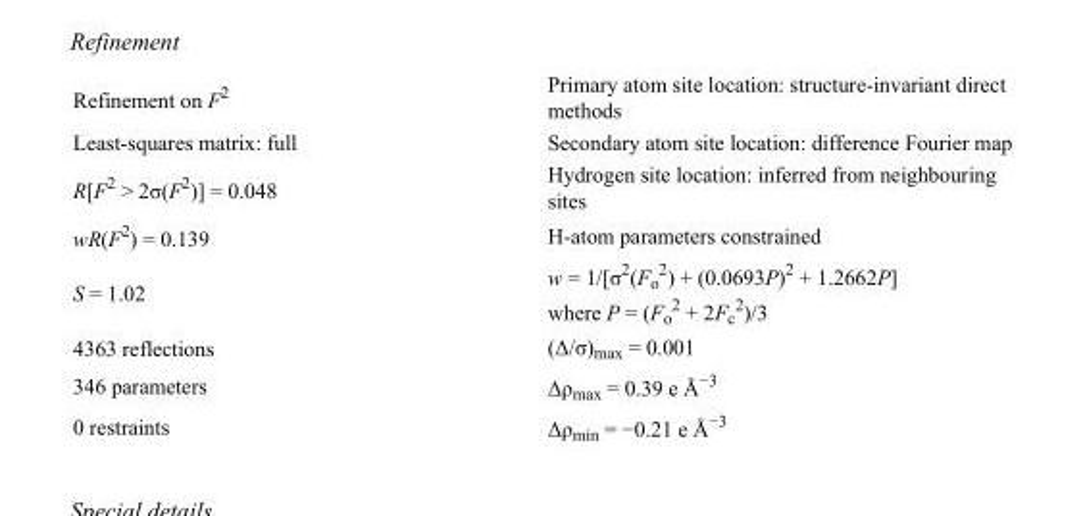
<table><tbody><tr><td>Refinement on F<sup>2</sup></td><td>Primary atom site location: structure-invariant direct methods</td></tr><tr><td>Least-squares matrix: full</td><td>Secondary atom site location: difference Fourier map</td></tr><tr><td>R[F<sup>2</sup> &gt; 2σ(F<sup>2</sup>)] = 0.048</td><td>Hydrogen site location: inferred from neighbouring sites</td></tr><tr><td>wR(F<sup>2</sup>) = 0.139</td><td>H-atom parameters constrained</td></tr><tr><td>S = 1.02</td><td>w = 1/[σ<sup>2</sup>(F<sub>o</sub> <sup>2</sup>) + (0.0693P)<sup>2</sup> + 1.2662P] where P = (F<sub>o</sub> <sup>2</sup> + 2F<sub>c</sub> <sup>2</sup>)/3</td></tr><tr><td>4363 reflections</td><td>(Δ/σ)<sub>max</sub> = 0.001</td></tr><tr><td>346 parameters</td><td>Δρ<sub>max</sub> = 0.39 e Å<sup>−3</sup></td></tr><tr><td>0 restraints</td><td>Δρ<sub>min</sub> = −0.21 e Å<sup>−3</sup></td></tr></tbody></table>